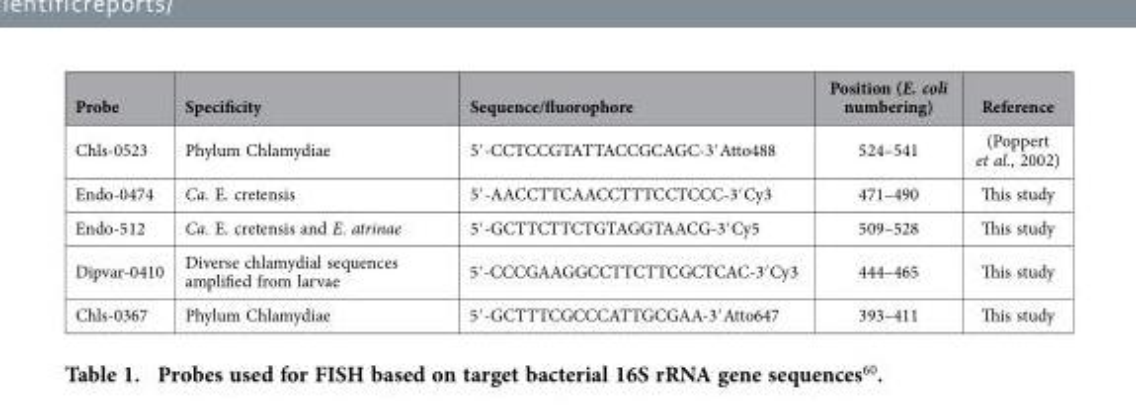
<table><thead><tr><td>Probe</td><td>Specificity</td><td>Sequence/fluorophore</td><td>Position (E. coli numbering)</td><td>Reference</td></tr></thead><tbody><tr><td>Chls-0523</td><td>Phylum Chlamydiae</td><td>5′ -CCTCCGTATTACCGCAGC-3′ Atto488</td><td>524–541</td><td>(Poppert et al., 2002)</td></tr><tr><td>Endo-0474</td><td>Ca. E. cretensis</td><td>5′ -AACCTTCAACCTTTCCTCCC-3′ Cy3</td><td>471–490</td><td>This study</td></tr><tr><td>Endo-512</td><td>Ca. E. cretensis and E. atrinae</td><td>5′ -GCTTCTTCTGTAGGTAACG-3′ Cy5</td><td>509–528</td><td>This study</td></tr><tr><td>Dipvar-0410</td><td>Diverse chlamydial sequences amplified from larvae</td><td>5′-CCCGAAGGCCTTCTTCGCTCAC-3′ Cy3</td><td>444–465</td><td>This study</td></tr><tr><td>Chls-0367</td><td>Phylum Chlamydiae</td><td>5′ -GCTTTCGCCCATTGCGAA-3′ Atto647</td><td>393–411</td><td>This study</td></tr></tbody></table>